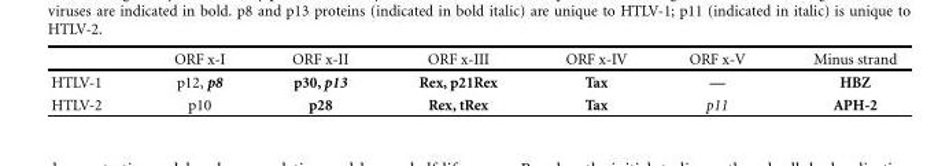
<table><thead><tr><td></td><td>ORF x-I</td><td>ORF x-II</td><td>ORF x-III</td><td>ORF x-IV</td><td>ORF x-V</td><td>Minus strand</td></tr></thead><tbody><tr><td>HTLV-1</td><td>p12, p8</td><td>p30, p13</td><td>Rex, p21Rex</td><td>Tax</td><td>—</td><td>HBZ</td></tr><tr><td>HTLV-2</td><td>p10</td><td>p28</td><td>Rex, tRex</td><td>Tax</td><td>p11</td><td>APH-2</td></tr></tbody></table>